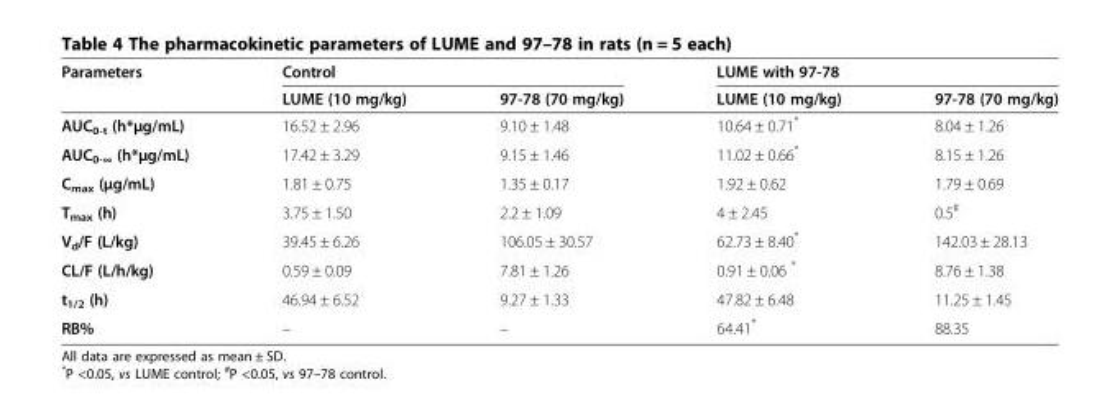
<table><thead><tr><td rowspan="2">Parameters</td><td colspan="2">Control</td><td colspan="2">LUME with 97-78</td></tr><tr><td>LUME (10 mg/kg)</td><td>97-78 (70 mg/kg)</td><td>LUME (10 mg/kg)</td><td>97-78 (70 mg/kg)</td></tr></thead><tbody><tr><td>AUC<sub>0-t</sub> (h*μg/mL)</td><td>16.52 ± 2.96</td><td>9.10 ± 1.48</td><td>10.64 ± 0.71*</td><td>8.04 ± 1.26</td></tr><tr><td>AUC<sub>0-∞</sub> (h*μg/mL)</td><td>17.42 ± 3.29</td><td>9.15 ± 1.46</td><td>11.02 ± 0.66*</td><td>8.15 ± 1.26</td></tr><tr><td>C<sub>max</sub> (μg/mL)</td><td>1.81 ± 0.75</td><td>1.35 ± 0.17</td><td>1.92 ± 0.62</td><td>1.79 ± 0.69</td></tr><tr><td>T<sub>max</sub> (h)</td><td>3.75 ± 1.50</td><td>2.2 ± 1.09</td><td>4 ± 2.45</td><td>0.5<sup>#</sup></td></tr><tr><td>V<sub>d</sub>/F (L/kg)</td><td>39.45 ± 6.26</td><td>106.05 ± 30.57</td><td>62.73 ± 8.40*</td><td>142.03 ± 28.13</td></tr><tr><td>CL/F (L/h/kg)</td><td>0.59 ± 0.09</td><td>7.81 ± 1.26</td><td>0.91 ± 0.06 *</td><td>8.76 ± 1.38</td></tr><tr><td>t<sub>1/2</sub> (h)</td><td>46.94 ± 6.52</td><td>9.27 ± 1.33</td><td>47.82 ± 6.48</td><td>11.25 ± 1.45</td></tr><tr><td>RB%</td><td>–</td><td>–</td><td>64.41*</td><td>88.35</td></tr></tbody></table>